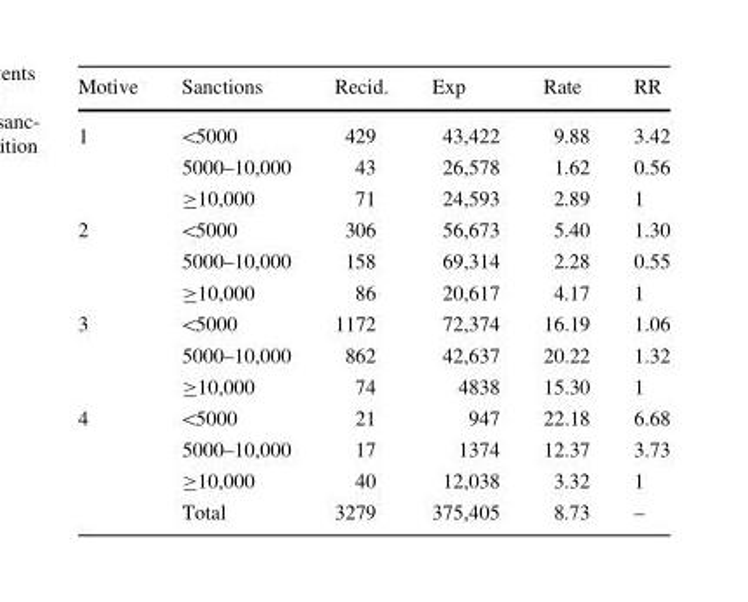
<table><thead><tr><td>Motive</td><td>Sanctions</td><td>Recid.</td><td>Exp</td><td>Rate</td><td>RR</td></tr></thead><tbody><tr><td rowspan="3">1</td><td>&lt;5000</td><td>429</td><td>43,422</td><td>9.88</td><td>3.42</td></tr><tr><td>5000–10,000</td><td>43</td><td>26,578</td><td>1.62</td><td>0.56</td></tr><tr><td>≥10,000</td><td>71</td><td>24,593</td><td>2.89</td><td>1</td></tr><tr><td rowspan="3">2</td><td>&lt;5000</td><td>306</td><td>56,673</td><td>5.40</td><td>1.30</td></tr><tr><td>5000–10,000</td><td>158</td><td>69,314</td><td>2.28</td><td>0.55</td></tr><tr><td>≥10,000</td><td>86</td><td>20,617</td><td>4.17</td><td>1</td></tr><tr><td rowspan="3">3</td><td>&lt;5000</td><td>1172</td><td>72,374</td><td>16.19</td><td>1.06</td></tr><tr><td>5000–10,000</td><td>862</td><td>42,637</td><td>20.22</td><td>1.32</td></tr><tr><td>≥10,000</td><td>74</td><td>4838</td><td>15.30</td><td>1</td></tr><tr><td rowspan="4">4</td><td>&lt;5000</td><td>21</td><td>947</td><td>22.18</td><td>6.68</td></tr><tr><td>5000–10,000</td><td>17</td><td>1374</td><td>12.37</td><td>3.73</td></tr><tr><td>≥10,000</td><td>40</td><td>12,038</td><td>3.32</td><td>1</td></tr><tr><td>Total</td><td>3279</td><td>375,405</td><td>8.73</td><td>–</td></tr></tbody></table>